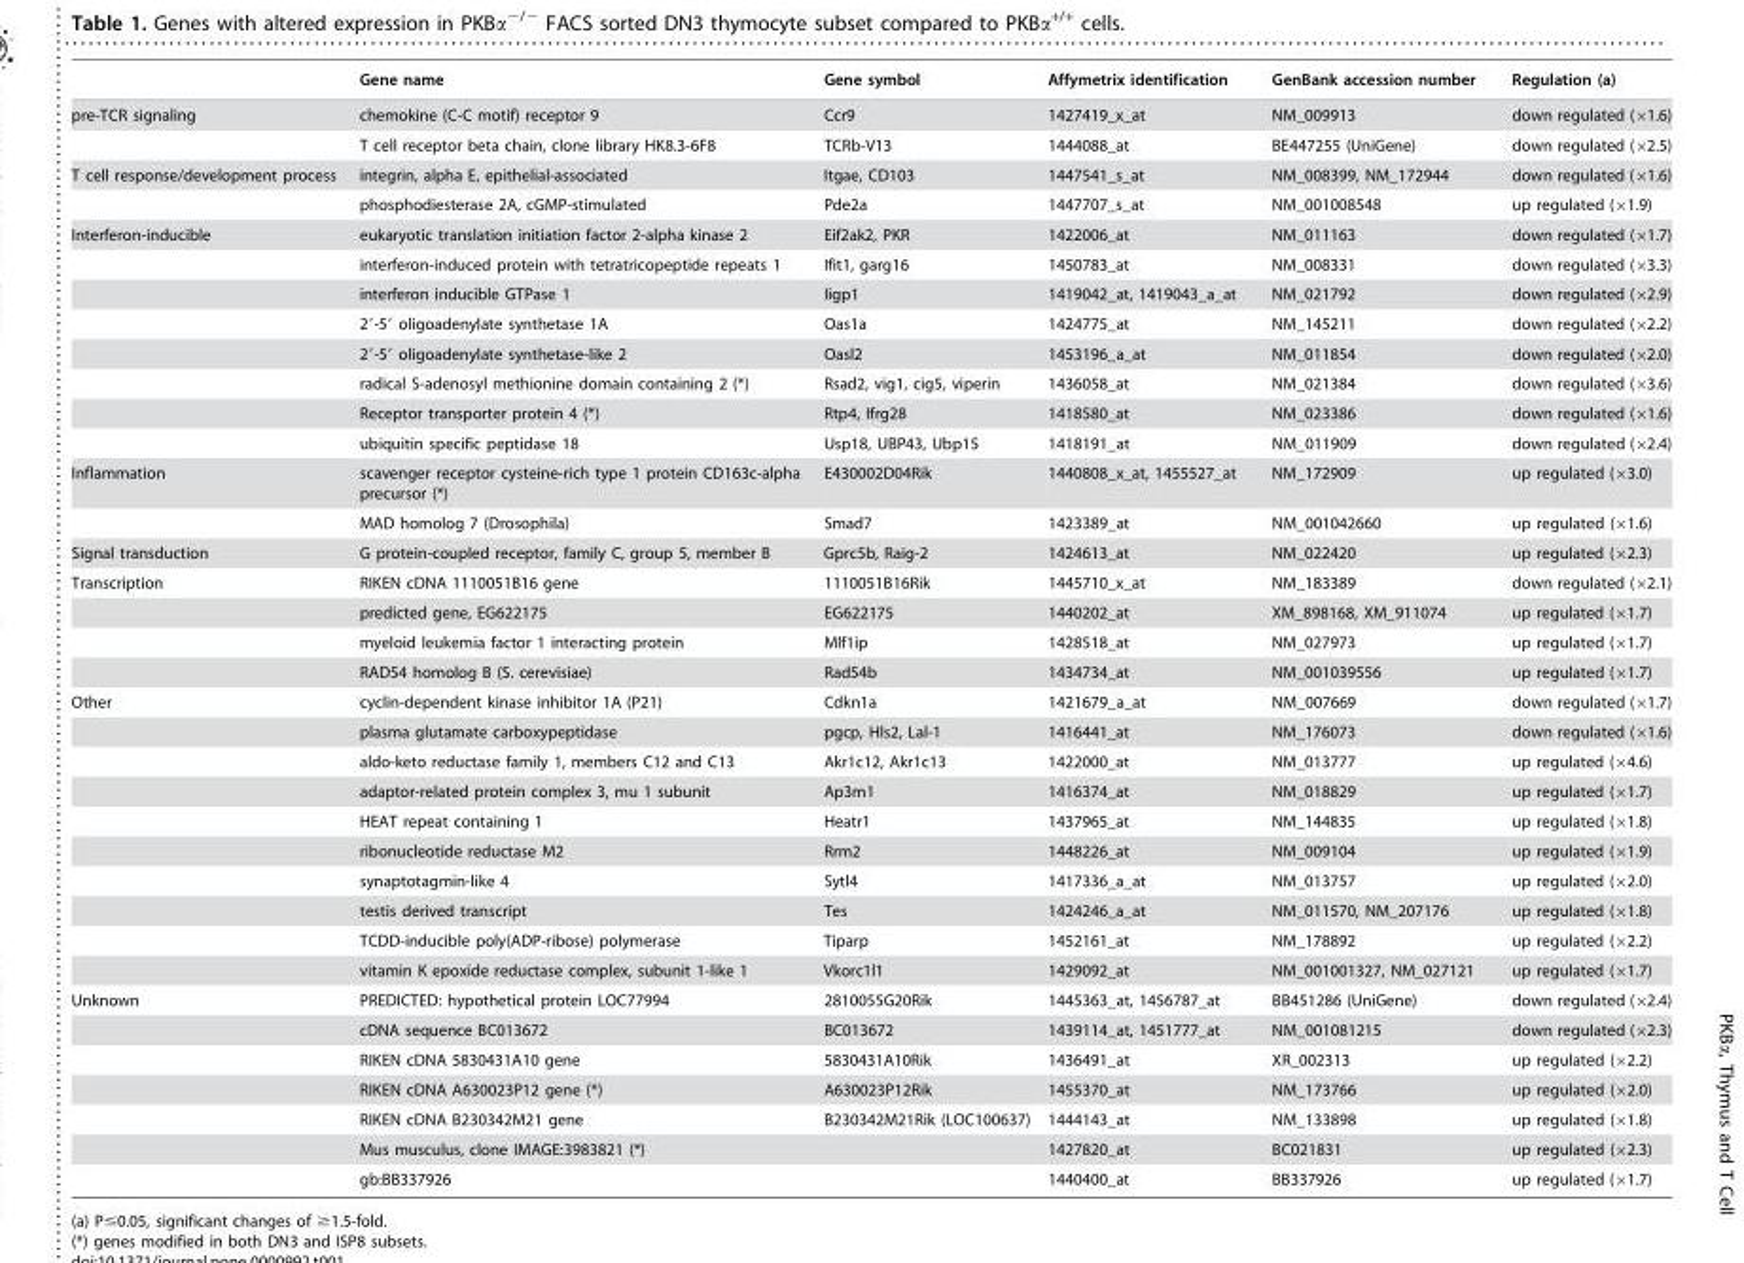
<table><thead><tr><td></td><td>Gene name</td><td>Gene symbol</td><td>Affymetrix identification</td><td>GenBank accession number</td><td>Regulation (a)</td></tr></thead><tbody><tr><td rowspan="2">pre-TCR signaling</td><td>chemokine (C-C motif) receptor 9</td><td>Ccr9</td><td>1427419_x_at</td><td>NM_009913</td><td>down regulated (×1.6)</td></tr><tr><td>T cell receptor beta chain, clone library HK8.3-6F8</td><td>TCRb-V13</td><td>1444088_at</td><td>BE447255 (UniGene)</td><td>down regulated (×2.5)</td></tr><tr><td rowspan="2">T cell response/development process</td><td>integrin, alpha E, epithelial-associated</td><td>Itgae, CD103</td><td>1447541_s_at</td><td>NM_008399, NM_172944</td><td>down regulated (×1.6)</td></tr><tr><td>phosphodiesterase 2A, cGMP-stimulated</td><td>Pde2a</td><td>1447707_s_at</td><td>NM_001008548</td><td>up regulated (×1.9)</td></tr><tr><td rowspan="8">Interferon-inducible</td><td>eukaryotic translation initiation factor 2-alpha kinase 2</td><td>Eif2ak2, PKR</td><td>1422006_at</td><td>NM_011163</td><td>down regulated (×1.7)</td></tr><tr><td>interferon-induced protein with tetratricopeptide repeats 1</td><td>Ifit1, garg16</td><td>1450783_at</td><td>NM_008331</td><td>down regulated (×3.3)</td></tr><tr><td>interferon inducible GTPase 1</td><td>Iigp1</td><td>1419042_at, 1419043_a_at</td><td>NM_021792</td><td>down regulated (×2.9)</td></tr><tr><td>2′-5′ oligoadenylate synthetase 1A</td><td>Oas1a</td><td>1424775_at</td><td>NM_145211</td><td>down regulated (×2.2)</td></tr><tr><td>2′-5′ oligoadenylate synthetase-like 2</td><td>Oasl2</td><td>1453196_a_at</td><td>NM_011854</td><td>down regulated (×2.0)</td></tr><tr><td>radical S-adenosyl methionine domain containing 2 (*)</td><td>Rsad2, vig1, cig5, viperin</td><td>1436058_at</td><td>NM_021384</td><td>down regulated (×3.6)</td></tr><tr><td>Receptor transporter protein 4 (*)</td><td>Rtp4, Ifrg28</td><td>1418580_at</td><td>NM_023386</td><td>down regulated (×1.6)</td></tr><tr><td>ubiquitin specific peptidase 18</td><td>Usp18, UBP43, Ubp15</td><td>1418191_at</td><td>NM_011909</td><td>down regulated (×2.4)</td></tr><tr><td rowspan="2">Inflammation</td><td>scavenger receptor cysteine-rich type 1 protein CD163c-alpha precursor (*)</td><td>E430002D04Rik</td><td>1440808_x_at, 1455527_at</td><td>NM_172909</td><td>up regulated (×3.0)</td></tr><tr><td>MAD homolog 7 (Drosophila)</td><td>Smad7</td><td>1423389_at</td><td>NM_001042660</td><td>up regulated (×1.6)</td></tr><tr><td>Signal transduction</td><td>G protein-coupled receptor, family C, group 5, member B</td><td>Gprc5b, Raig-2</td><td>1424613_at</td><td>NM_022420</td><td>up regulated (×2.3)</td></tr><tr><td rowspan="4">Transcription</td><td>RIKEN cDNA 1110051B16 gene</td><td>1110051B16Rik</td><td>1445710_x_at</td><td>NM_183389</td><td>down regulated (×2.1)</td></tr><tr><td>predicted gene, EG622175</td><td>EG622175</td><td>1440202_at</td><td>XM_898168, XM_911074</td><td>up regulated (×1.7)</td></tr><tr><td>myeloid leukemia factor 1 interacting protein</td><td>Mlf1ip</td><td>1428518_at</td><td>NM_027973</td><td>up regulated (×1.7)</td></tr><tr><td>RAD54 homolog B (S. cerevisiae)</td><td>Rad54b</td><td>1434734_at</td><td>NM_001039556</td><td>up regulated (×1.7)</td></tr><tr><td rowspan="10">Other</td><td>cyclin-dependent kinase inhibitor 1A (P21)</td><td>Cdkn1a</td><td>1421679_a_at</td><td>NM_007669</td><td>down regulated (×1.7)</td></tr><tr><td>plasma glutamate carboxypeptidase</td><td>pgcp, Hls2, Lal-1</td><td>1416441_at</td><td>NM_176073</td><td>down regulated (×1.6)</td></tr><tr><td>aldo-keto reductase family 1, members C12 and C13</td><td>Akr1c12, Akr1c13</td><td>1422000_at</td><td>NM_013777</td><td>up regulated (×4.6)</td></tr><tr><td>adaptor-related protein complex 3, mu 1 subunit</td><td>Ap3m1</td><td>1416374_at</td><td>NM_018829</td><td>up regulated (×1.7)</td></tr><tr><td>HEAT repeat containing 1</td><td>Heatr1</td><td>1437965_at</td><td>NM_144835</td><td>up regulated (×1.8)</td></tr><tr><td>ribonucleotide reductase M2</td><td>Rrm2</td><td>1448226_at</td><td>NM_009104</td><td>up regulated (×1.9)</td></tr><tr><td>synaptotagmin-like 4</td><td>Sytl4</td><td>1417336_a_at</td><td>NM_013757</td><td>up regulated (×2.0)</td></tr><tr><td>testis derived transcript</td><td>Tes</td><td>1424246_a_at</td><td>NM_011570, NM_207176</td><td>up regulated (×1.8)</td></tr><tr><td>TCDD-inducible poly(ADP-ribose) polymerase</td><td>Tiparp</td><td>1452161_at</td><td>NM_178892</td><td>up regulated (×2.2)</td></tr><tr><td>vitamin K epoxide reductase complex, subunit 1-like 1</td><td>Vkorc1l1</td><td>1429092_at</td><td>NM_001001327, NM_027121</td><td>up regulated (×1.7)</td></tr><tr><td rowspan="7">Unknown</td><td>PREDICTED: hypothetical protein LOC77994</td><td>2810055G20Rik</td><td>1445363_at, 1456787_at</td><td>BB451286 (UniGene)</td><td>down regulated (×2.4)</td></tr><tr><td>cDNA sequence BC013672</td><td>BC013672</td><td>1439114_at, 1451777_at</td><td>NM_001081215</td><td>down regulated (×2.3)</td></tr><tr><td>RIKEN cDNA 5830431A10 gene</td><td>5830431A10Rik</td><td>1436491_at</td><td>XR_002313</td><td>up regulated (×2.2)</td></tr><tr><td>RIKEN cDNA A630023P12 gene (*)</td><td>A630023P12Rik</td><td>1455370_at</td><td>NM_173766</td><td>up regulated (×2.0)</td></tr><tr><td>RIKEN cDNA B230342M21 gene</td><td>B230342M21Rik (LOC100637)</td><td>1444143_at</td><td>NM_133898</td><td>up regulated (×1.8)</td></tr><tr><td>Mus musculus, clone IMAGE:3983821 (*)</td><td></td><td>1427820_at</td><td>BC021831</td><td>up regulated (×2.3)</td></tr><tr><td>gb:BB337926</td><td></td><td>1440400_at</td><td>BB337926</td><td>up regulated (×1.7)</td></tr></tbody></table>